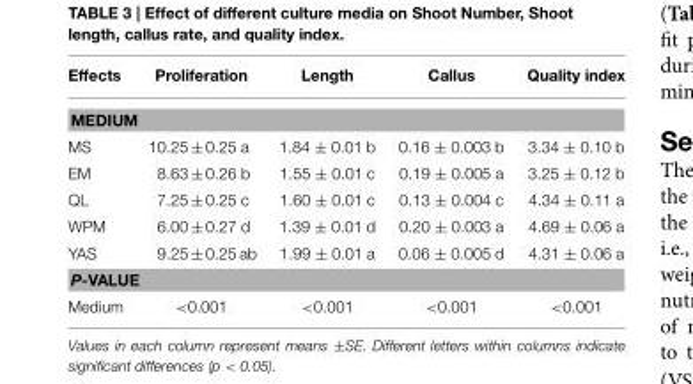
<table><thead><tr><td>Effects</td><td>Proliferation</td><td>Length</td><td>Callus</td><td>Quality index</td></tr></thead><tbody><tr><td colspan="5">MEDIUM</td></tr><tr><td>MS</td><td>10.25 ± 0.25 a</td><td>1.84 ± 0.01 b</td><td>0.16 ± 0.003 b</td><td>3.34 ± 0.10 b</td></tr><tr><td>EM</td><td>8.63 ± 0.26 b</td><td>1.55 ± 0.01 c</td><td>0.19 ± 0.005 a</td><td>3.25 ± 0.12 b</td></tr><tr><td>QL</td><td>7.25 ± 0.25 c</td><td>1.60 ± 0.01 c</td><td>0.13 ± 0.004 c</td><td>4.34 ± 0.11 a</td></tr><tr><td>WPM</td><td>6.00 ± 0.27 d</td><td>1.39 ± 0.01 d</td><td>0.20 ± 0.003 a</td><td>4.69 ± 0.06 a</td></tr><tr><td>YAS</td><td>9.25 ± 0.25 ab</td><td>1.99 ± 0.01 a</td><td>0.06 ± 0.005 d</td><td>4.31 ± 0.06 a</td></tr><tr><td colspan="5">P-VALUE</td></tr><tr><td>Medium</td><td>&lt;0.001</td><td>&lt;0.001</td><td>&lt;0.001</td><td>&lt;0.001</td></tr></tbody></table>